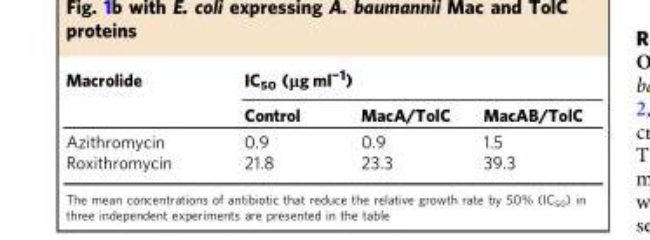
<table><thead><tr><td rowspan="2">Macrolide</td><td colspan="3">IC<sub>50</sub> (μg ml<sup>−1</sup>)</td></tr><tr><td>Control</td><td>MacA/TolC</td><td>MacAB/TolC</td></tr></thead><tbody><tr><td>Azithromycin</td><td>0.9</td><td>0.9</td><td>1.5</td></tr><tr><td>Roxithromycin</td><td>21.8</td><td>23.3</td><td>39.3</td></tr></tbody></table>